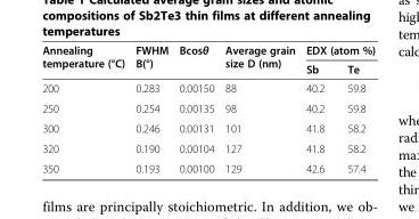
<table><thead><tr><td rowspan="2">Annealing temperature (°C)</td><td rowspan="2">FWHM B(°)</td><td rowspan="2">Bcosθ</td><td rowspan="2">Average grain size D (nm)</td><td colspan="2">EDX (atom %)</td></tr><tr><td>Sb</td><td>Te</td></tr></thead><tbody><tr><td>200</td><td>0.283</td><td>0.00150</td><td>88</td><td>40.2</td><td>59.8</td></tr><tr><td>250</td><td>0.254</td><td>0.00135</td><td>98</td><td>40.2</td><td>59.8</td></tr><tr><td>300</td><td>0.246</td><td>0.00131</td><td>101</td><td>41.8</td><td>58.2</td></tr><tr><td>320</td><td>0.190</td><td>0.00104</td><td>127</td><td>41.8</td><td>58.2</td></tr><tr><td>350</td><td>0.193</td><td>0.00100</td><td>129</td><td>42.6</td><td>57.4</td></tr></tbody></table>